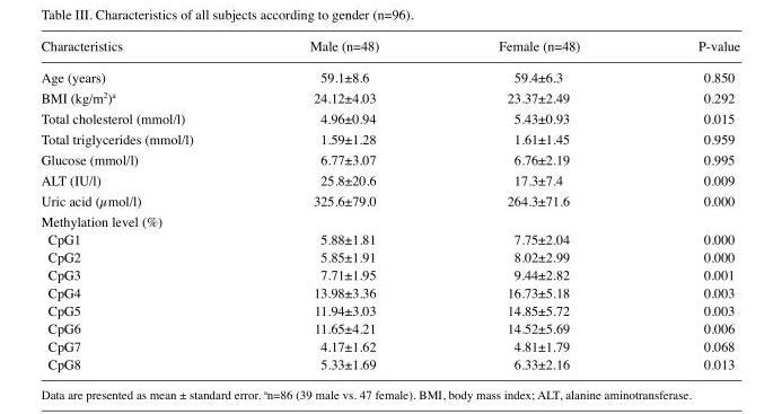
<table><thead><tr><td>Characteristics</td><td>Male (n=48)</td><td>Female (n=48)</td><td>P-value</td></tr></thead><tbody><tr><td>Age (years)</td><td>59.1±8.6</td><td>59.4±6.3</td><td>0.850</td></tr><tr><td>BMI (kg/m<sup>2</sup>)<sup>a</sup></td><td>24.12±4.03</td><td>23.37±2.49</td><td>0.292</td></tr><tr><td>Total cholesterol (mmol/l)</td><td>4.96±0.94</td><td>5.43±0.93</td><td>0.015</td></tr><tr><td>Total triglycerides (mmol/l)</td><td>1.59±1.28</td><td>1.61±1.45</td><td>0.959</td></tr><tr><td>Glucose (mmol/l)</td><td>6.77±3.07</td><td>6.76±2.19</td><td>0.995</td></tr><tr><td>ALT (IU/l)</td><td>25.8±20.6</td><td>17.3±7.4</td><td>0.009</td></tr><tr><td>Uric acid (µmol/l)</td><td>325.6±79.0</td><td>264.3±71.6</td><td>0.000</td></tr><tr><td colspan="4">Methylation level (%)</td></tr><tr><td>CpG1</td><td>5.88±1.81</td><td>7.75±2.04</td><td>0.000</td></tr><tr><td>CpG2</td><td>5.85±1.91</td><td>8.02±2.99</td><td>0.000</td></tr><tr><td>CpG3</td><td>7.71±1.95</td><td>9.44±2.82</td><td>0.001</td></tr><tr><td>CpG4</td><td>13.98±3.36</td><td>16.73±5.18</td><td>0.003</td></tr><tr><td>CpG5</td><td>11.94±3.03</td><td>14.85±5.72</td><td>0.003</td></tr><tr><td>CpG6</td><td>11.65±4.21</td><td>14.52±5.69</td><td>0.006</td></tr><tr><td>CpG7</td><td>4.17±1.62</td><td>4.81±1.79</td><td>0.068</td></tr><tr><td>CpG8</td><td>5.33±1.69</td><td>6.33±2.16</td><td>0.013</td></tr></tbody></table>